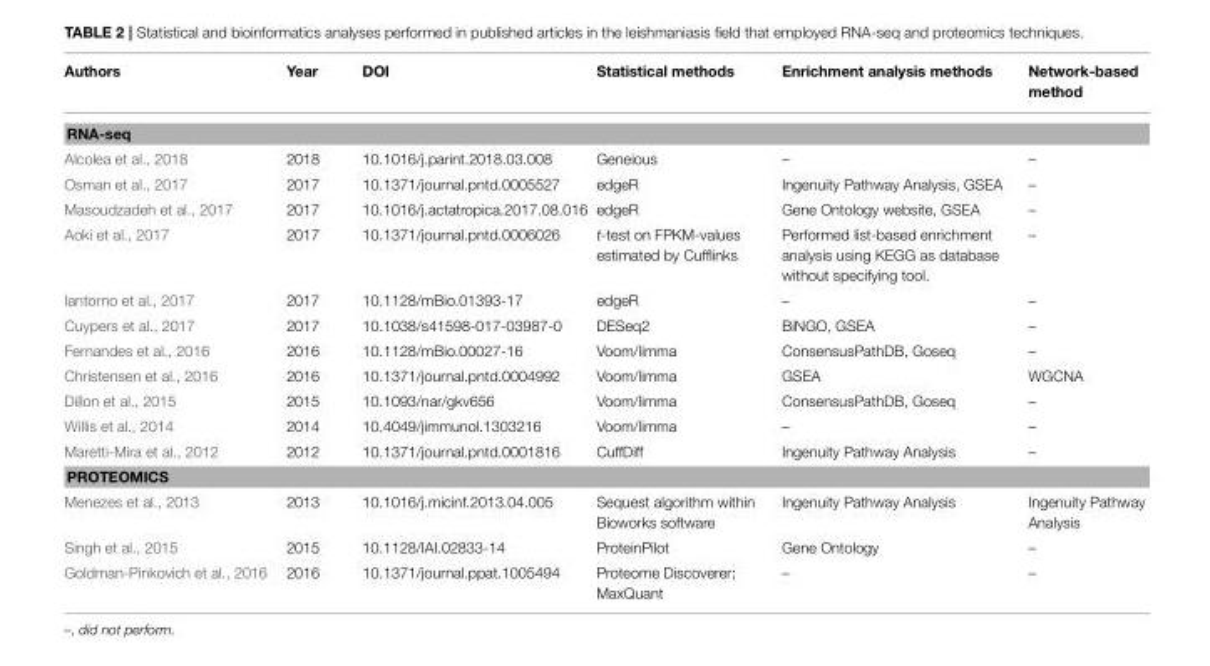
<table><thead><tr><td>Authors</td><td>Year</td><td>DOI</td><td>Statistical methods</td><td>Enrichment analysis methods</td><td>Network-based method</td></tr></thead><tbody><tr><td colspan="6">RNA-seq</td></tr><tr><td>Alcolea et al., 2018</td><td>2018</td><td>10.1016/j.parint.2018.03.008</td><td>Geneious</td><td>–</td><td>–</td></tr><tr><td>Osman et al., 2017</td><td>2017</td><td>10.1371/journal.pntd.0005527</td><td>edgeR</td><td>Ingenuity Pathway Analysis, GSEA</td><td>–</td></tr><tr><td>Masoudzadeh et al., 2017</td><td>2017</td><td>10.1016/j.actatropica.2017.08.016</td><td>edgeR</td><td>Gene Ontology website, GSEA</td><td>–</td></tr><tr><td>Aoki et al., 2017</td><td>2017</td><td>10.1371/journal.pntd.0006026</td><td>t-test on FPKM-values estimated by Cufflinks</td><td>Performed list-based enrichment analysis using KEGG as database without specifying tool.</td><td>–</td></tr><tr><td>Iantorno et al., 2017</td><td>2017</td><td>10.1128/mBio.01393-17</td><td>edgeR</td><td>–</td><td>–</td></tr><tr><td>Cuypers et al., 2017</td><td>2017</td><td>10.1038/s41598-017-03987-0</td><td>DESeq2</td><td>BiNGO, GSEA</td><td>–</td></tr><tr><td>Fernandes et al., 2016</td><td>2016</td><td>10.1128/mBio.00027-16</td><td>Voom/limma</td><td>ConsensusPathDB, Goseq</td><td>–</td></tr><tr><td>Christensen et al., 2016</td><td>2016</td><td>10.1371/journal.pntd.0004992</td><td>Voom/limma</td><td>GSEA</td><td>WGCNA</td></tr><tr><td>Dillon et al., 2015</td><td>2015</td><td>10.1093/nar/gkv656</td><td>Voom/limma</td><td>ConsensusPathDB, Goseq</td><td>–</td></tr><tr><td>Willis et al., 2014</td><td>2014</td><td>10.4049/jimmunol.1303216</td><td>Voom/limma</td><td>–</td><td>–</td></tr><tr><td>Maretti-Mira et al., 2012</td><td>2012</td><td>10.1371/journal.pntd.0001816</td><td>CuffDiff</td><td>Ingenuity Pathway Analysis</td><td>–</td></tr><tr><td colspan="6">PROTEOMICS</td></tr><tr><td>Menezes et al., 2013</td><td>2013</td><td>10.1016/j.micinf.2013.04.005</td><td>Sequest algorithm within Bioworks software</td><td>Ingenuity Pathway Analysis</td><td>Ingenuity Pathway Analysis</td></tr><tr><td>Singh et al., 2015</td><td>2015</td><td>10.1128/IAI.02833-14</td><td>ProteinPilot</td><td>Gene Ontology</td><td>–</td></tr><tr><td>Goldman-Pinkovich et al., 2016</td><td>2016</td><td>10.1371/journal.ppat.1005494</td><td>Proteome Discoverer; MaxQuant</td><td>–</td><td>–</td></tr></tbody></table>